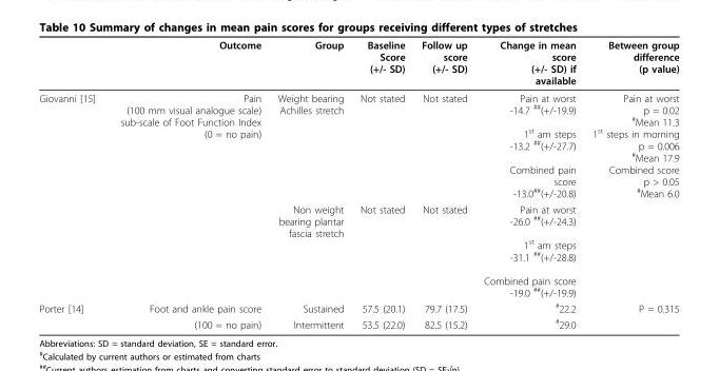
<table><thead><tr><td></td><td>Outcome</td><td>Group</td><td>Baseline Score (+/- SD)</td><td>Follow up score (+/- SD)</td><td>Change in mean score (+/- SD) if available</td><td>Between group difference (p value)</td></tr></thead><tbody><tr><td rowspan="2">Giovanni [15]</td><td>Pain (100 mm visual analogue scale) sub-scale of Foot Function Index (0 = no pain)</td><td>Weight bearing Achilles stretch</td><td>Not stated</td><td>Not stated</td><td>Pain at worst -14.7 <sup>##</sup>(+/-19.9) 1<sup>st</sup> am steps -13.2 <sup>##</sup>(+/-27.7) Combined pain score -13.0<sup>##</sup>(+/-20.8)</td><td>Pain at worst p = 0.02 <sup>#</sup>Mean 11.3 1<sup>st</sup> steps in morning p = 0.006 <sup>#</sup>Mean 17.9 Combined score p &gt; 0.05 <sup>#</sup>Mean 6.0</td></tr><tr><td></td><td>Non weight bearing plantar fascia stretch</td><td>Not stated</td><td>Not stated</td><td>Pain at worst -26.0 <sup>##</sup>(+/-24.3) 1<sup>st</sup> am steps -31.1 <sup>##</sup>(+/-28.8) Combined pain score -19.0 <sup>##</sup>(+/-19.9)</td><td></td></tr><tr><td rowspan="2">Porter [14]</td><td>Foot and ankle pain score</td><td>Sustained</td><td>57.5 (20.1)</td><td>79.7 (17.5)</td><td><sup>#</sup>22.2</td><td>P = 0.315</td></tr><tr><td>(100 = no pain)</td><td>Intermittent</td><td>53.5 (22.0)</td><td>82.5 (15.2)</td><td><sup>#</sup>29.0</td><td></td></tr></tbody></table>